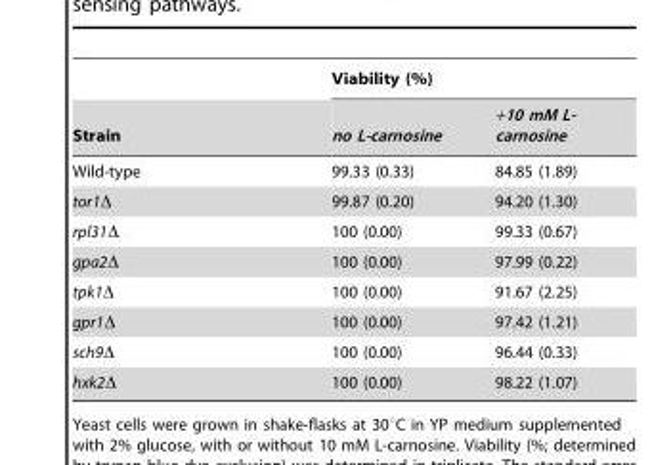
<table><thead><tr><td rowspan="2">Strain</td><td colspan="2">Viability (%)</td></tr><tr><td>no L-carnosine</td><td>+10 mM L- carnosine</td></tr></thead><tbody><tr><td>Wild-type</td><td>99.33 (0.33)</td><td>84.85 (1.89)</td></tr><tr><td>tor1Δ</td><td>99.87 (0.20)</td><td>94.20 (1.30)</td></tr><tr><td>rpl31Δ</td><td>100 (0.00)</td><td>99.33 (0.67)</td></tr><tr><td>gpa2Δ</td><td>100 (0.00)</td><td>97.99 (0.22)</td></tr><tr><td>tpk1Δ</td><td>100 (0.00)</td><td>91.67 (2.25)</td></tr><tr><td>gpr1Δ</td><td>100 (0.00)</td><td>97.42 (1.21)</td></tr><tr><td>sch9Δ</td><td>100 (0.00)</td><td>96.44 (0.33)</td></tr><tr><td>hxk2Δ</td><td>100 (0.00)</td><td>98.22 (1.07)</td></tr></tbody></table>